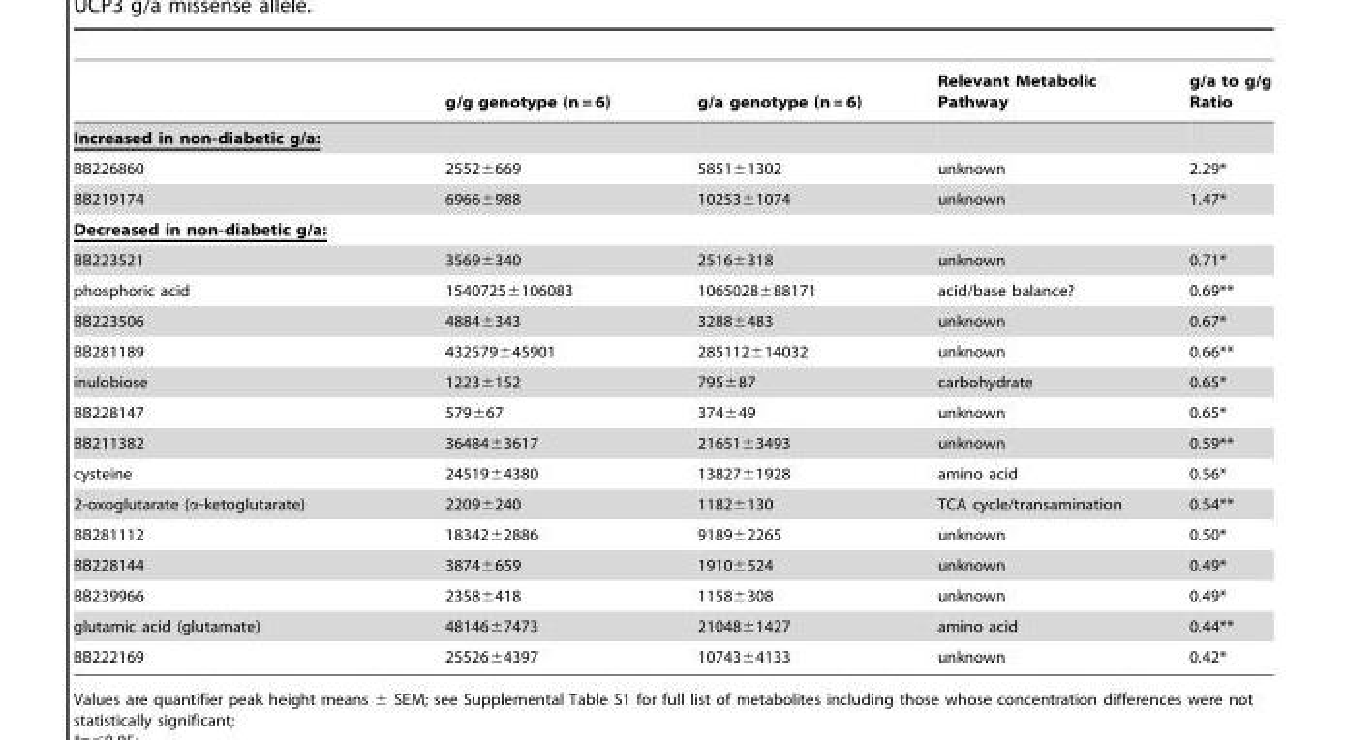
<table><thead><tr><td></td><td>g/g genotype (n = 6)</td><td>g/a genotype (n = 6)</td><td>Relevant Metabolic Pathway</td><td>g/a to g/g Ratio</td></tr></thead><tbody><tr><td colspan="5">Increased in non-diabetic g/a:</td></tr><tr><td>BB226860</td><td>2552±669</td><td>5851±1302</td><td>unknown</td><td>2.29*</td></tr><tr><td>BB219174</td><td>6966±988</td><td>10253±1074</td><td>unknown</td><td>1.47*</td></tr><tr><td colspan="5">Decreased in non-diabetic g/a:</td></tr><tr><td>BB223521</td><td>3569±340</td><td>2516±318</td><td>unknown</td><td>0.71*</td></tr><tr><td>phosphoric acid</td><td>1540725±106083</td><td>1065028±88171</td><td>acid/base balance?</td><td>0.69**</td></tr><tr><td>BB223506</td><td>4884±343</td><td>3288±483</td><td>unknown</td><td>0.67*</td></tr><tr><td>BB281189</td><td>432579±45901</td><td>285112±14032</td><td>unknown</td><td>0.66**</td></tr><tr><td>inulobiose</td><td>1223±152</td><td>795±87</td><td>carbohydrate</td><td>0.65*</td></tr><tr><td>BB228147</td><td>579±67</td><td>374±49</td><td>unknown</td><td>0.65*</td></tr><tr><td>BB211382</td><td>36484±3617</td><td>21651±3493</td><td>unknown</td><td>0.59**</td></tr><tr><td>cysteine</td><td>24519±4380</td><td>13827±1928</td><td>amino acid</td><td>0.56*</td></tr><tr><td>2-oxoglutarate (α-ketoglutarate)</td><td>2209±240</td><td>1182±130</td><td>TCA cycle/transamination</td><td>0.54**</td></tr><tr><td>BB281112</td><td>18342±2886</td><td>9189±2265</td><td>unknown</td><td>0.50*</td></tr><tr><td>BB228144</td><td>3874±659</td><td>1910±524</td><td>unknown</td><td>0.49*</td></tr><tr><td>BB239966</td><td>2358±418</td><td>1158±308</td><td>unknown</td><td>0.49*</td></tr><tr><td>glutamic acid (glutamate)</td><td>48146±7473</td><td>21048±1427</td><td>amino acid</td><td>0.44**</td></tr><tr><td>BB222169</td><td>25526±4397</td><td>10743±4133</td><td>unknown</td><td>0.42*</td></tr></tbody></table>